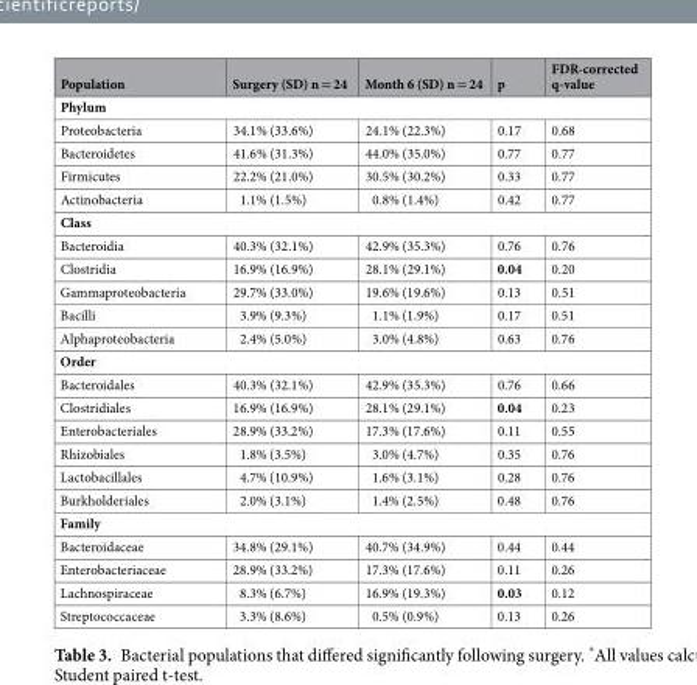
<table><thead><tr><td>Population</td><td>Surgery (SD) n = 24</td><td>Month 6 (SD) n = 24</td><td>p</td><td>FDR-corrected q-value</td></tr></thead><tbody><tr><td colspan="5">Phylum</td></tr><tr><td>Proteobacteria</td><td>34.1% (33.6%)</td><td>24.1% (22.3%)</td><td>0.17</td><td>0.68</td></tr><tr><td>Bacteroidetes</td><td>41.6% (31.3%)</td><td>44.0% (35.0%)</td><td>0.77</td><td>0.77</td></tr><tr><td>Firmicutes</td><td>22.2% (21.0%)</td><td>30.5% (30.2%)</td><td>0.33</td><td>0.77</td></tr><tr><td>Actinobacteria</td><td>1.1% (1.5%)</td><td>0.8% (1.4%)</td><td>0.42</td><td>0.77</td></tr><tr><td colspan="5">Class</td></tr><tr><td>Bacteroidia</td><td>40.3% (32.1%)</td><td>42.9% (35.3%)</td><td>0.76</td><td>0.76</td></tr><tr><td>Clostridia</td><td>16.9% (16.9%)</td><td>28.1% (29.1%)</td><td>0.04</td><td>0.20</td></tr><tr><td>Gammaproteobacteria</td><td>29.7% (33.0%)</td><td>19.6% (19.6%)</td><td>0.13</td><td>0.51</td></tr><tr><td>Bacilli</td><td>3.9% (9.3%)</td><td>1.1% (1.9%)</td><td>0.17</td><td>0.51</td></tr><tr><td>Alphaproteobacteria</td><td>2.4% (5.0%)</td><td>3.0% (4.8%)</td><td>0.63</td><td>0.76</td></tr><tr><td colspan="5">Order</td></tr><tr><td>Bacteroidales</td><td>40.3% (32.1%)</td><td>42.9% (35.3%)</td><td>0.76</td><td>0.66</td></tr><tr><td>Clostridiales</td><td>16.9% (16.9%)</td><td>28.1% (29.1%)</td><td>0.04</td><td>0.23</td></tr><tr><td>Enterobacteriales</td><td>28.9% (33.2%)</td><td>17.3% (17.6%)</td><td>0.11</td><td>0.55</td></tr><tr><td>Rhizobiales</td><td>1.8% (3.5%)</td><td>3.0% (4.7%)</td><td>0.35</td><td>0.76</td></tr><tr><td>Lactobacillales</td><td>4.7% (10.9%)</td><td>1.6% (3.1%)</td><td>0.28</td><td>0.76</td></tr><tr><td>Burkholderiales</td><td>2.0% (3.1%)</td><td>1.4% (2.5%)</td><td>0.48</td><td>0.76</td></tr><tr><td colspan="5">Family</td></tr><tr><td>Bacteroidaceae</td><td>34.8% (29.1%)</td><td>40.7% (34.9%)</td><td>0.44</td><td>0.44</td></tr><tr><td>Enterobacteriaceae</td><td>28.9% (33.2%)</td><td>17.3% (17.6%)</td><td>0.11</td><td>0.26</td></tr><tr><td>Lachnospiraceae</td><td>8.3% (6.7%)</td><td>16.9% (19.3%)</td><td>0.03</td><td>0.12</td></tr><tr><td>Streptococcaceae</td><td>3.3% (8.6%)</td><td>0.5% (0.9%)</td><td>0.13</td><td>0.26</td></tr></tbody></table>